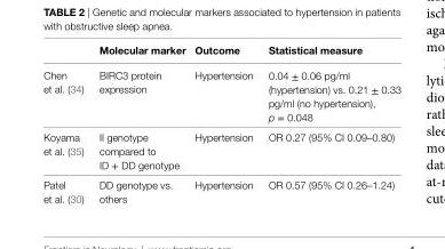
<table><thead><tr><td></td><td>Molecular marker</td><td>Outcome</td><td>Statistical measure</td></tr></thead><tbody><tr><td>Chen et al. (34)</td><td>BIRC3 protein expression</td><td>Hypertension</td><td>0.04 ± 0.06 pg/ml (hypertension) vs. 0.21 ± 0.33 pg/ml (no hypertension), p = 0.048</td></tr><tr><td>Koyama et al. (35)</td><td>II genotype compared to ID + DD genotype</td><td>Hypertension</td><td>OR 0.27 (95% CI 0.09–0.80)</td></tr><tr><td>Patel et al. (30)</td><td>DD genotype vs. others</td><td>Hypertension</td><td>OR 0.57 (95% CI 0.26–1.24)</td></tr></tbody></table>